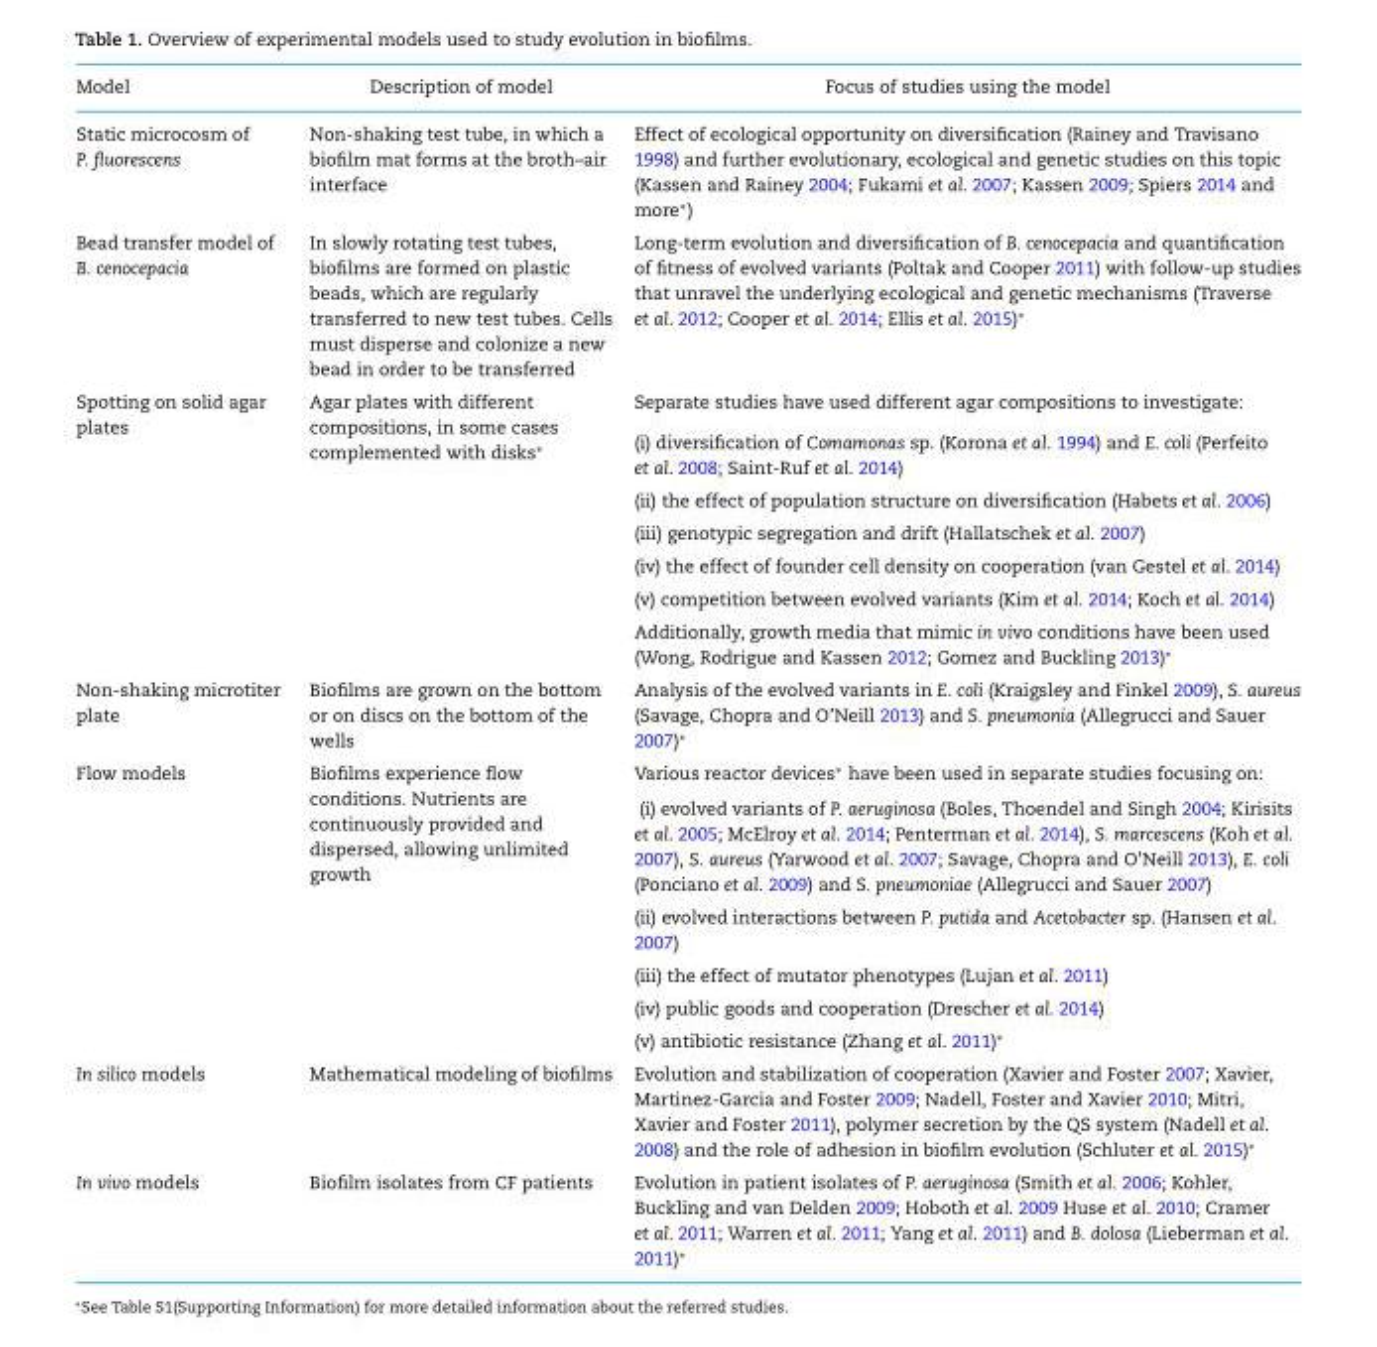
<table><thead><tr><td>Model</td><td>Description of model</td><td>Focus of studies using the model</td></tr></thead><tbody><tr><td>Static microcosm of P. fluorescens</td><td>Non-shaking test tube, in which a biofilm mat forms at the broth–air interface</td><td>Effect of ecological opportunity on diversification (Rainey and Travisano 1998) and further evolutionary, ecological and genetic studies on this topic (Kassen and Rainey 2004; Fukami et al. 2007; Kassen 2009; Spiers 2014 and more∗)</td></tr><tr><td>Bead transfer model of B. cenocepacia</td><td>In slowly rotating test tubes, biofilms are formed on plastic beads, which are regularly transferred to new test tubes. Cells must disperse and colonize a new bead in order to be transferred</td><td>Long-term evolution and diversification of B. cenocepacia and quantification of fitness of evolved variants (Poltak and Cooper 2011) with follow-up studies that unravel the underlying ecological and genetic mechanisms (Traverse et al. 2012; Cooper et al. 2014; Ellis et al. 2015)∗</td></tr><tr><td>Spotting on solid agar plates</td><td>Agar plates with different compositions, in some cases complemented with disks∗</td><td>Separate studies have used different agar compositions to investigate: (i) diversification of Comamonas sp. (Korona et al. 1994) and E. coli (Perfeito et al. 2008; Saint-Ruf et al. 2014) (ii) the effect of population structure on diversification (Habets et al. 2006) (iii) genotypic segregation and drift (Hallatschek et al. 2007) (iv) the effect of founder cell density on cooperation (van Gestel et al. 2014) (v) competition between evolved variants (Kim et al. 2014; Koch et al. 2014) Additionally, growth media that mimic in vivo conditions have been used (Wong, Rodrigue and Kassen 2012; Gomez and Buckling 2013)∗</td></tr><tr><td>Non-shaking microtiter plate</td><td>Biofilms are grown on the bottom or on discs on the bottom of the wells</td><td>Analysis of the evolved variants in E. coli (Kraigsley and Finkel 2009), S. aureus (Savage, Chopra and O’Neill 2013) and S. pneumonia (Allegrucci and Sauer 2007)∗</td></tr><tr><td>Flow models</td><td>Biofilms experience flow conditions. Nutrients are continuously provided and dispersed, allowing unlimited growth</td><td>Various reactor devices∗ have been used in separate studies focusing on: (i) evolved variants of P. aeruginosa (Boles, Thoendel and Singh 2004; Kirisits et al. 2005; McElroy et al. 2014; Penterman et al. 2014), S. marcescens (Koh et al. 2007), S. aureus (Yarwood et al. 2007; Savage, Chopra and O’Neill 2013), E. coli (Ponciano et al. 2009) and S. pneumoniae (Allegrucci and Sauer 2007) (ii) evolved interactions between P. putida and Acetobacter sp. (Hansen et al. 2007) (iii) the effect of mutator phenotypes (Lujan et al. 2011) (iv) public goods and cooperation (Drescher et al. 2014) (v) antibiotic resistance (Zhang et al. 2011)∗</td></tr><tr><td>In silico models</td><td>Mathematical modeling of biofilms</td><td>Evolution and stabilization of cooperation (Xavier and Foster 2007; Xavier, Martinez-Garcia and Foster 2009; Nadell, Foster and Xavier 2010; Mitri, Xavier and Foster 2011), polymer secretion by the QS system (Nadell et al. 2008) and the role of adhesion in biofilm evolution (Schluter et al. 2015)∗</td></tr><tr><td>In vivo models</td><td>Biofilm isolates from CF patients</td><td>Evolution in patient isolates of P. aeruginosa (Smith et al. 2006; Kohler, Buckling and van Delden 2009; Hoboth et al. 2009 Huse et al. 2010; Cramer et al. 2011; Warren et al. 2011; Yang et al. 2011) and B. dolosa (Lieberman et al. 2011)∗</td></tr></tbody></table>